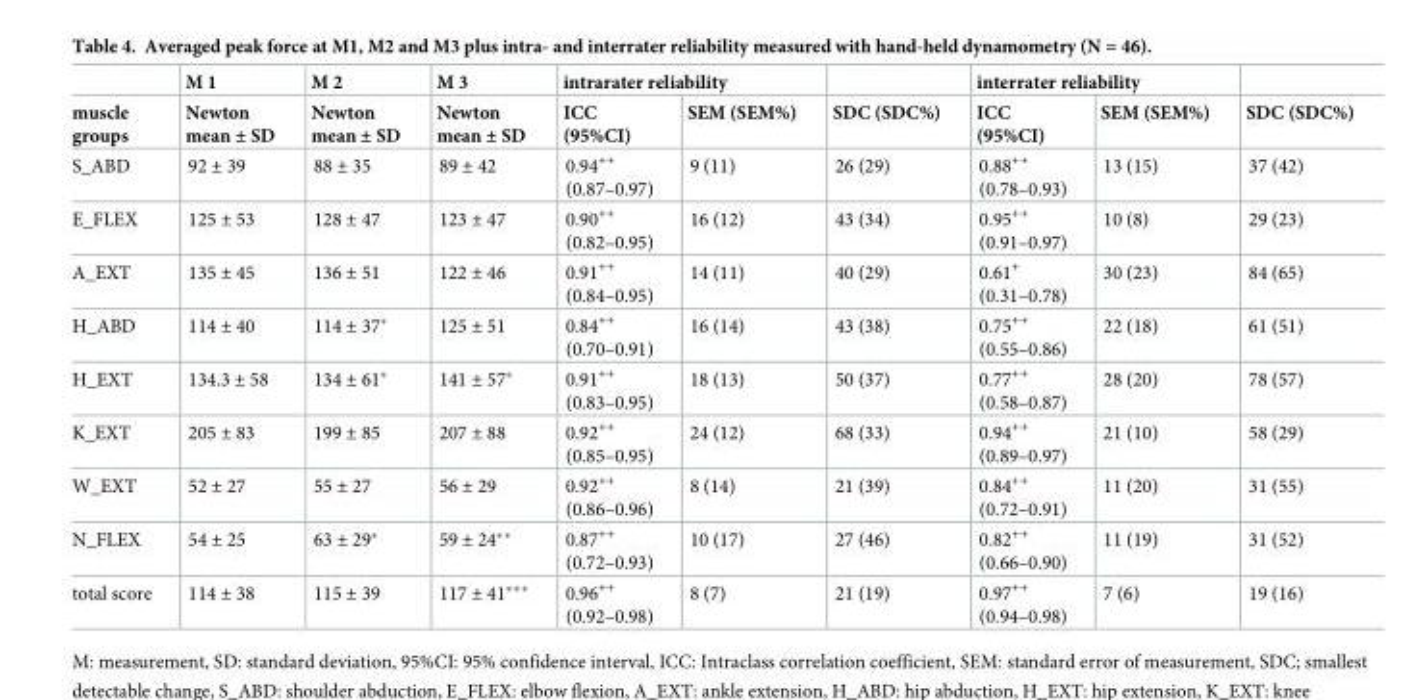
<table><thead><tr><td rowspan="2">muscle groups</td><td rowspan="2">M 1 Newton mean ± SD</td><td rowspan="2">M 2 Newton mean ± SD</td><td rowspan="2">M 3 Newton mean ± SD</td><td colspan="2">intrarater reliability</td><td rowspan="2">SDC (SDC%)</td><td colspan="2">interrater reliability</td><td rowspan="2">SDC (SDC%)</td></tr><tr><td>ICC (95%CI)</td><td>SEM (SEM%)</td><td>ICC (95%CI)</td><td>SEM (SEM%)</td></tr></thead><tbody><tr><td>S_ABD</td><td>92 ± 39</td><td>88 ± 35</td><td>89 ± 42</td><td>0.94<sup>++</sup> (0.87–0.97)</td><td>9 (11)</td><td>26 (29)</td><td>0.88<sup>++</sup> (0.78–0.93)</td><td>13 (15)</td><td>37 (42)</td></tr><tr><td>E_FLEX</td><td>125 ± 53</td><td>128 ± 47</td><td>123 ± 47</td><td>0.90<sup>++</sup> (0.82–0.95)</td><td>16 (12)</td><td>43 (34)</td><td>0.95<sup>++</sup> (0.91–0.97)</td><td>10 (8)</td><td>29 (23)</td></tr><tr><td>A_EXT</td><td>135 ± 45</td><td>136 ± 51</td><td>122 ± 46</td><td>0.91<sup>++</sup> (0.84–0.95)</td><td>14 (11)</td><td>40 (29)</td><td>0.61<sup>+</sup> (0.31–0.78)</td><td>30 (23)</td><td>84 (65)</td></tr><tr><td>H_ABD</td><td>114 ± 40</td><td>114 ± 37*</td><td>125 ± 51</td><td>0.84<sup>++</sup> (0.70–0.91)</td><td>16 (14)</td><td>43 (38)</td><td>0.75<sup>++</sup> (0.55–0.86)</td><td>22 (18)</td><td>61 (51)</td></tr><tr><td>H_EXT</td><td>134.3 ± 58</td><td>134 ± 61*</td><td>141 ± 57*</td><td>0.91<sup>++</sup> (0.83–0.95)</td><td>18 (13)</td><td>50 (37)</td><td>0.77<sup>++</sup> (0.58–0.87)</td><td>28 (20)</td><td>78 (57)</td></tr><tr><td>K_EXT</td><td>205 ± 83</td><td>199 ± 85</td><td>207 ± 88</td><td>0.92<sup>++</sup> (0.85–0.95)</td><td>24 (12)</td><td>68 (33)</td><td>0.94<sup>++</sup> (0.89–0.97)</td><td>21 (10)</td><td>58 (29)</td></tr><tr><td>W_EXT</td><td>52 ± 27</td><td>55 ± 27</td><td>56 ± 29</td><td>0.92<sup>++</sup> (0.86–0.96)</td><td>8 (14)</td><td>21 (39)</td><td>0.84<sup>++</sup> (0.72–0.91)</td><td>11 (20)</td><td>31 (55)</td></tr><tr><td>N_FLEX</td><td>54 ± 25</td><td>63 ± 29*</td><td>59 ± 24**</td><td>0.87<sup>++</sup> (0.72–0.93)</td><td>10 (17)</td><td>27 (46)</td><td>0.82<sup>++</sup> (0.66–0.90)</td><td>11 (19)</td><td>31 (52)</td></tr><tr><td>total score</td><td>114 ± 38</td><td>115 ± 39</td><td>117 ± 41***</td><td>0.96<sup>++</sup> (0.92–0.98)</td><td>8 (7)</td><td>21 (19)</td><td>0.97<sup>++</sup> (0.94–0.98)</td><td>7 (6)</td><td>19 (16)</td></tr></tbody></table>